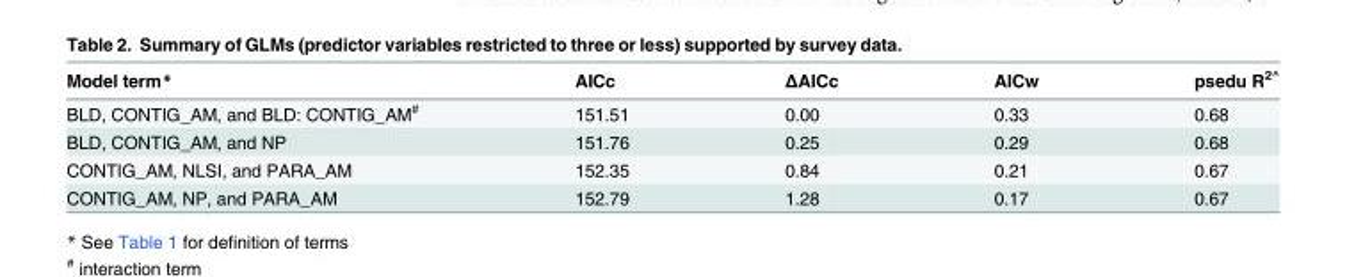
<table><thead><tr><td>Model term*</td><td>AICc</td><td>ΔAICc</td><td>AICw</td><td>psedu R<sup>2^</sup></td></tr></thead><tbody><tr><td>BLD, CONTIG_AM, and BLD: CONTIG_AM<sup>#</sup></td><td>151.51</td><td>0.00</td><td>0.33</td><td>0.68</td></tr><tr><td>BLD, CONTIG_AM, and NP</td><td>151.76</td><td>0.25</td><td>0.29</td><td>0.68</td></tr><tr><td>CONTIG_AM, NLSI, and PARA_AM</td><td>152.35</td><td>0.84</td><td>0.21</td><td>0.67</td></tr><tr><td>CONTIG_AM, NP, and PARA_AM</td><td>152.79</td><td>1.28</td><td>0.17</td><td>0.67</td></tr></tbody></table>